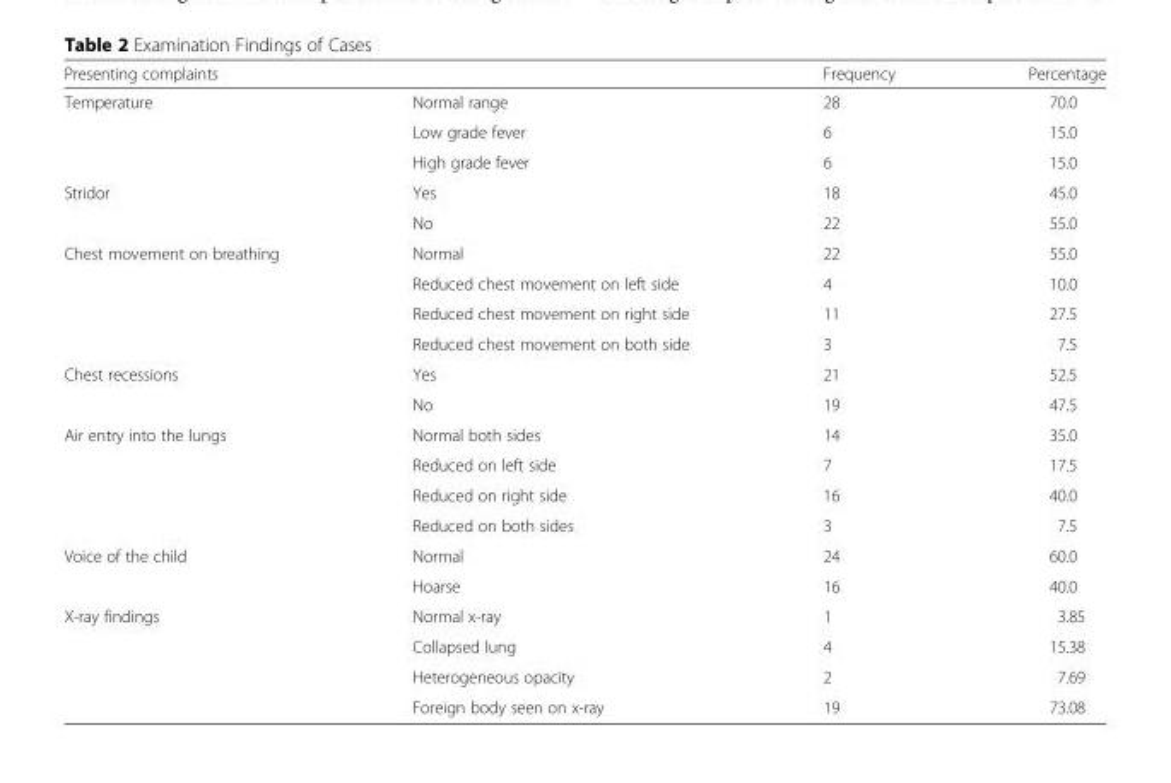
<table><thead><tr><td>Presenting complaints</td><td></td><td>Frequency</td><td>Percentage</td></tr></thead><tbody><tr><td rowspan="3">Temperature</td><td>Normal range</td><td>28</td><td>70.0</td></tr><tr><td>Low grade fever</td><td>6</td><td>15.0</td></tr><tr><td>High grade fever</td><td>6</td><td>15.0</td></tr><tr><td rowspan="2">Stridor</td><td>Yes</td><td>18</td><td>45.0</td></tr><tr><td>No</td><td>22</td><td>55.0</td></tr><tr><td rowspan="4">Chest movement on breathing</td><td>Normal</td><td>22</td><td>55.0</td></tr><tr><td>Reduced chest movement on left side</td><td>4</td><td>10.0</td></tr><tr><td>Reduced chest movement on right side</td><td>11</td><td>27.5</td></tr><tr><td>Reduced chest movement on both side</td><td>3</td><td>7.5</td></tr><tr><td rowspan="2">Chest recessions</td><td>Yes</td><td>21</td><td>52.5</td></tr><tr><td>No</td><td>19</td><td>47.5</td></tr><tr><td rowspan="4">Air entry into the lungs</td><td>Normal both sides</td><td>14</td><td>35.0</td></tr><tr><td>Reduced on left side</td><td>7</td><td>17.5</td></tr><tr><td>Reduced on right side</td><td>16</td><td>40.0</td></tr><tr><td>Reduced on both sides</td><td>3</td><td>7.5</td></tr><tr><td rowspan="2">Voice of the child</td><td>Normal</td><td>24</td><td>60.0</td></tr><tr><td>Hoarse</td><td>16</td><td>40.0</td></tr><tr><td rowspan="4">X-ray findings</td><td>Normal x-ray</td><td>1</td><td>3.85</td></tr><tr><td>Collapsed lung</td><td>4</td><td>15.38</td></tr><tr><td>Heterogeneous opacity</td><td>2</td><td>7.69</td></tr><tr><td>Foreign body seen on x-ray</td><td>19</td><td>73.08</td></tr></tbody></table>